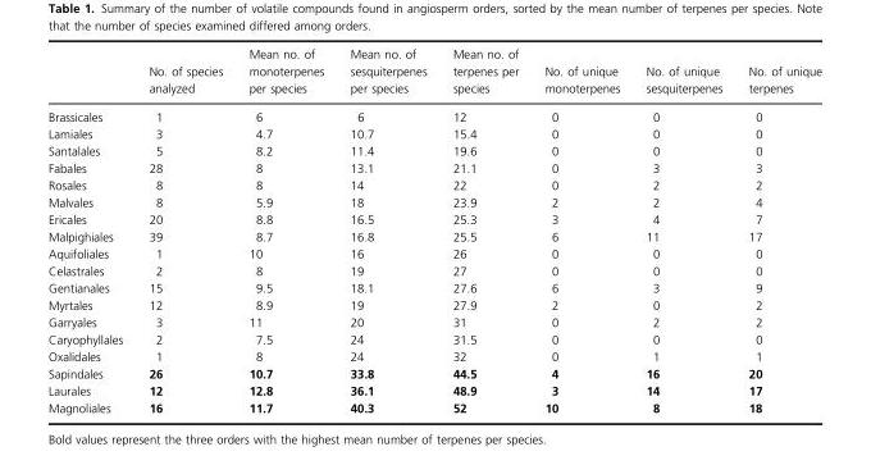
<table><thead><tr><td></td><td>No. of species analyzed</td><td>Mean no. of monoterpenes per species</td><td>Mean no. of sesquiterpenes per species</td><td>Mean no. of terpenes per species</td><td>No. of unique monoterpenes</td><td>No. of unique sesquiterpenes</td><td>No. of unique terpenes</td></tr></thead><tbody><tr><td>Brassicales</td><td>1</td><td>6</td><td>6</td><td>12</td><td>0</td><td>0</td><td>0</td></tr><tr><td>Lamiales</td><td>3</td><td>4.7</td><td>10.7</td><td>15.4</td><td>0</td><td>0</td><td>0</td></tr><tr><td>Santalales</td><td>5</td><td>8.2</td><td>11.4</td><td>19.6</td><td>0</td><td>0</td><td>0</td></tr><tr><td>Fabales</td><td>28</td><td>8</td><td>13.1</td><td>21.1</td><td>0</td><td>3</td><td>3</td></tr><tr><td>Rosales</td><td>8</td><td>8</td><td>14</td><td>22</td><td>0</td><td>2</td><td>2</td></tr><tr><td>Malvales</td><td>8</td><td>5.9</td><td>18</td><td>23.9</td><td>2</td><td>2</td><td>4</td></tr><tr><td>Ericales</td><td>20</td><td>8.8</td><td>16.5</td><td>25.3</td><td>3</td><td>4</td><td>7</td></tr><tr><td>Malpighiales</td><td>39</td><td>8.7</td><td>16.8</td><td>25.5</td><td>6</td><td>11</td><td>17</td></tr><tr><td>Aquifoliales</td><td>1</td><td>10</td><td>16</td><td>26</td><td>0</td><td>0</td><td>0</td></tr><tr><td>Celastrales</td><td>2</td><td>8</td><td>19</td><td>27</td><td>0</td><td>0</td><td>0</td></tr><tr><td>Gentianales</td><td>15</td><td>9.5</td><td>18.1</td><td>27.6</td><td>6</td><td>3</td><td>9</td></tr><tr><td>Myrtales</td><td>12</td><td>8.9</td><td>19</td><td>27.9</td><td>2</td><td>0</td><td>2</td></tr><tr><td>Garryales</td><td>3</td><td>11</td><td>20</td><td>31</td><td>0</td><td>2</td><td>2</td></tr><tr><td>Caryophyllales</td><td>2</td><td>7.5</td><td>24</td><td>31.5</td><td>0</td><td>0</td><td>0</td></tr><tr><td>Oxalidales</td><td>1</td><td>8</td><td>24</td><td>32</td><td>0</td><td>1</td><td>1</td></tr><tr><td>Sapindales</td><td>26</td><td>10.7</td><td>33.8</td><td>44.5</td><td>4</td><td>16</td><td>20</td></tr><tr><td>Laurales</td><td>12</td><td>12.8</td><td>36.1</td><td>48.9</td><td>3</td><td>14</td><td>17</td></tr><tr><td>Magnoliales</td><td>16</td><td>11.7</td><td>40.3</td><td>52</td><td>10</td><td>8</td><td>18</td></tr></tbody></table>